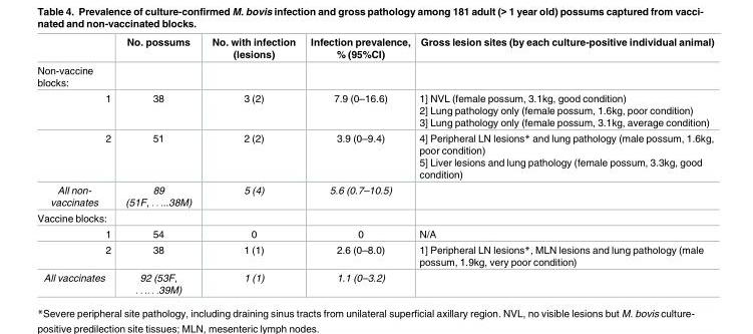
<table><thead><tr><td></td><td>No. possums</td><td>No. with infection (lesions)</td><td>Infection prevalence, % (95%CI)</td><td>Gross lesion sites (by each culture-positive individual animal)</td></tr></thead><tbody><tr><td colspan="5">Non-vaccine blocks:</td></tr><tr><td>1</td><td>38</td><td>3 (2)</td><td>7.9 (0–16.6)</td><td>1] NVL (female possum, 3.1kg, good condition) 2] Lung pathology only (female possum, 1.6kg, poor condition) 3] Lung pathology only (female possum, 3.1kg, average condition)</td></tr><tr><td>2</td><td>51</td><td>2 (2)</td><td>3.9 (0–9.4)</td><td>4] Peripheral LN lesions* and lung pathology (male possum, 1.6kg, poor condition) 5] Liver lesions and lung pathology (female possum, 3.3kg, good condition)</td></tr><tr><td>All non- vaccinates</td><td>89 (51F, . . ...38M)</td><td>5 (4)</td><td>5.6 (0.7–10.5)</td><td></td></tr><tr><td colspan="5">Vaccine blocks:</td></tr><tr><td>1</td><td>54</td><td>0</td><td>0</td><td>N/A</td></tr><tr><td>2</td><td>38</td><td>1 (1)</td><td>2.6 (0–8.0)</td><td>1] Peripheral LN lesions*, MLN lesions and lung pathology (male possum, 1.9kg, very poor condition)</td></tr><tr><td>All vaccinates</td><td>92 (53F, . . .. . .39M)</td><td>1 (1)</td><td>1.1 (0–3.2)</td><td></td></tr></tbody></table>